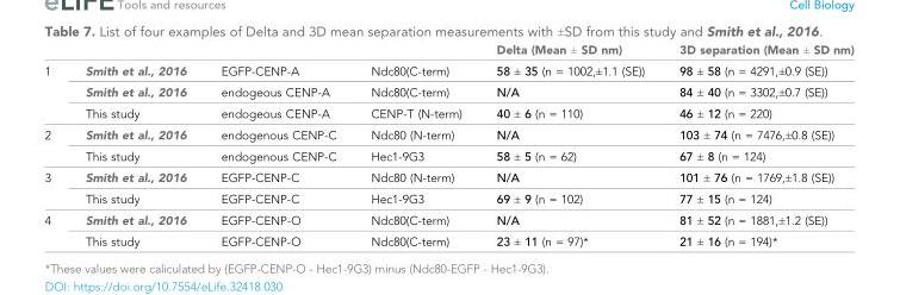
<table><thead><tr><td></td><td></td><td></td><td></td><td>Delta (Mean ± SD nm)</td><td>3D separation (Mean ± SD nm)</td></tr></thead><tbody><tr><td rowspan="3">1</td><td>Smith et al., 2016</td><td>EGFP-CENP-A</td><td>Ndc80(C-term)</td><td>58 ± 35 (n = 1002,±1.1 (SE))</td><td>98 ± 58 (n = 4291,±0.9 (SE))</td></tr><tr><td>Smith et al., 2016</td><td>endogeous CENP-A</td><td>Ndc80(C-term)</td><td>N/A</td><td>84 ± 40 (n = 3302,±0.7 (SE))</td></tr><tr><td>This study</td><td>endogeous CENP-A</td><td>CENP-T (N-term)</td><td>40 ± 6 (n = 110)</td><td>46 ± 12 (n = 220)</td></tr><tr><td rowspan="2">2</td><td>Smith et al., 2016</td><td>endogenous CENP-C</td><td>Ndc80 (N-term)</td><td>N/A</td><td>103 ± 74 (n = 7476,±0.8 (SE))</td></tr><tr><td>This study</td><td>endogenous CENP-C</td><td>Hec1-9G3</td><td>58 ± 5 (n = 62)</td><td>67 ± 8 (n = 124)</td></tr><tr><td rowspan="2">3</td><td>Smith et al., 2016</td><td>EGFP-CENP-C</td><td>Ndc80 (N-term)</td><td>N/A</td><td>101 ± 76 (n = 1769,±1.8 (SE))</td></tr><tr><td>This study</td><td>EGFP-CENP-C</td><td>Hec1-9G3</td><td>69 ± 9 (n = 102)</td><td>77 ± 15 (n = 124)</td></tr><tr><td rowspan="2">4</td><td>Smith et al., 2016</td><td>EGFP-CENP-O</td><td>Ndc80(C-term)</td><td>N/A</td><td>81 ± 52 (n = 1881,±1.2 (SE))</td></tr><tr><td>This study</td><td>EGFP-CENP-O</td><td>Ndc80(C-term)</td><td>23 ± 11 (n = 97)*</td><td>21 ± 16 (n = 194)*</td></tr></tbody></table>